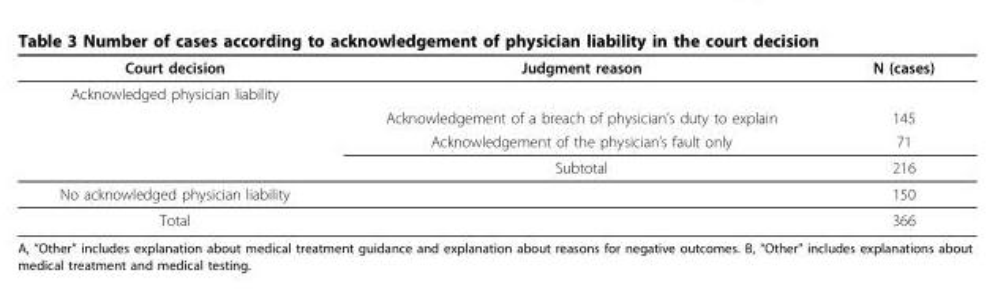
<table><thead><tr><td>Court decision</td><td>Judgment reason</td><td>N (cases)</td></tr></thead><tbody><tr><td colspan="3">Acknowledged physician liability</td></tr><tr><td></td><td>Acknowledgement of a breach of physician’s duty to explain</td><td>145</td></tr><tr><td></td><td>Acknowledgement of the physician’s fault only</td><td>71</td></tr><tr><td></td><td>Subtotal</td><td>216</td></tr><tr><td>No acknowledged physician liability</td><td></td><td>150</td></tr><tr><td>Total</td><td></td><td>366</td></tr></tbody></table>